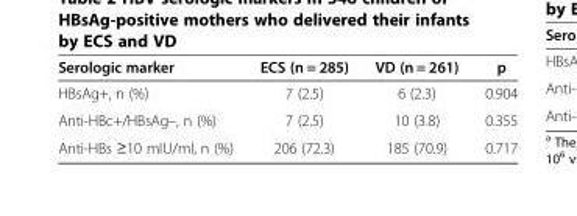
<table><thead><tr><td>Serologic marker</td><td>ECS (n = 285)</td><td>VD (n = 261)</td><td>p</td></tr></thead><tbody><tr><td>HBsAg+, n (%)</td><td>7 (2.5)</td><td>6 (2.3)</td><td>0.904</td></tr><tr><td>Anti-HBc+/HBsAg–, n (%)</td><td>7 (2.5)</td><td>10 (3.8)</td><td>0.355</td></tr><tr><td>Anti-HBs ≥10 mIU/ml, n (%)</td><td>206 (72.3)</td><td>185 (70.9)</td><td>0.717</td></tr></tbody></table>